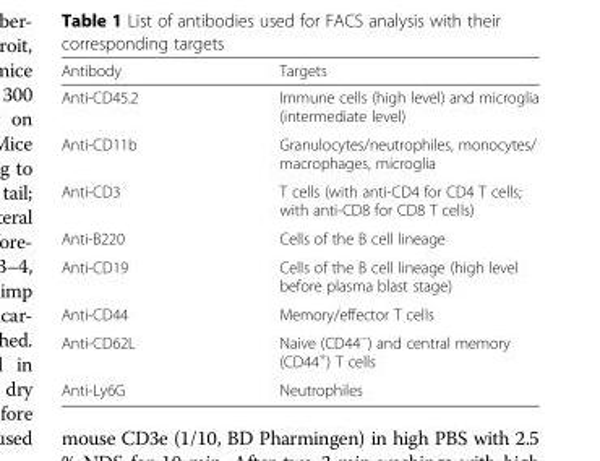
<table><thead><tr><td>Antibody</td><td>Targets</td></tr></thead><tbody><tr><td>Anti-CD45.2</td><td>Immune cells (high level) and microglia (intermediate level)</td></tr><tr><td>Anti-CD11b</td><td>Granulocytes/neutrophiles, monocytes/ macrophages, microglia</td></tr><tr><td>Anti-CD3</td><td>T cells (with anti-CD4 for CD4 T cells; with anti-CD8 for CD8 T cells)</td></tr><tr><td>Anti-B220</td><td>Cells of the B cell lineage</td></tr><tr><td>Anti-CD19</td><td>Cells of the B cell lineage (high level before plasma blast stage)</td></tr><tr><td>Anti-CD44</td><td>Memory/effector T cells</td></tr><tr><td>Anti-CD62L</td><td>Naive (CD44<sup>−</sup>) and central memory (CD44<sup>+</sup>) T cells</td></tr><tr><td>Anti-Ly6G</td><td>Neutrophiles</td></tr></tbody></table>